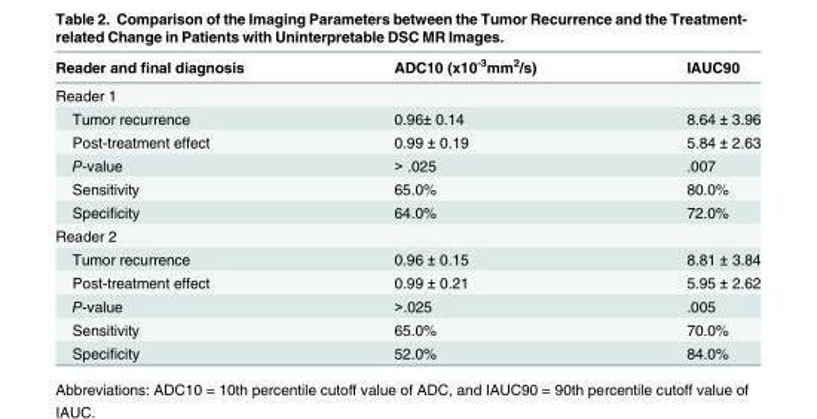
<table><thead><tr><td>Reader and final diagnosis</td><td>ADC10 (x10<sup>-3</sup>mm<sup>2</sup>/s)</td><td>IAUC90</td></tr></thead><tbody><tr><td colspan="3">Reader 1</td></tr><tr><td>Tumor recurrence</td><td>0.96± 0.14</td><td>8.64 ± 3.96</td></tr><tr><td>Post-treatment effect</td><td>0.99 ± 0.19</td><td>5.84 ± 2.63</td></tr><tr><td>P-value</td><td>&gt; .025</td><td>.007</td></tr><tr><td>Sensitivity</td><td>65.0%</td><td>80.0%</td></tr><tr><td>Specificity</td><td>64.0%</td><td>72.0%</td></tr><tr><td colspan="3">Reader 2</td></tr><tr><td>Tumor recurrence</td><td>0.96 ± 0.15</td><td>8.81 ± 3.84</td></tr><tr><td>Post-treatment effect</td><td>0.99 ± 0.21</td><td>5.95 ± 2.62</td></tr><tr><td>P-value</td><td>&gt;.025</td><td>.005</td></tr><tr><td>Sensitivity</td><td>65.0%</td><td>70.0%</td></tr><tr><td>Specificity</td><td>52.0%</td><td>84.0%</td></tr></tbody></table>